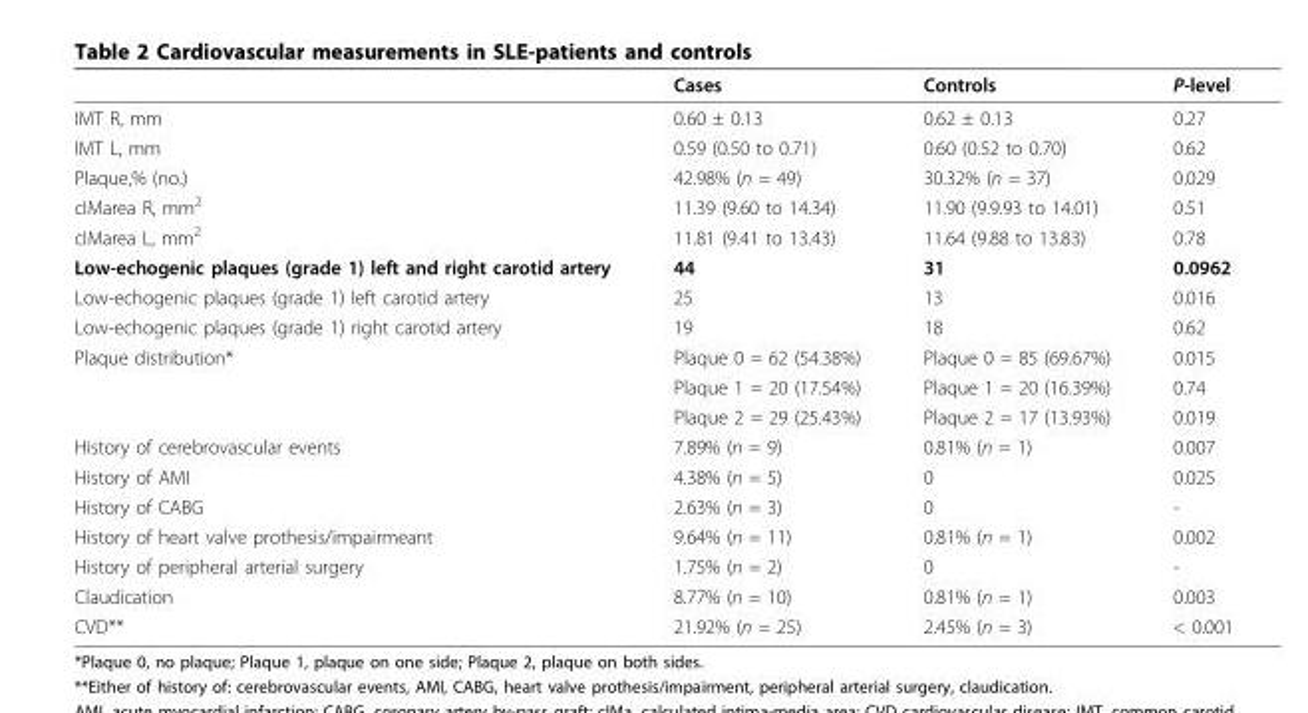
<table><thead><tr><td></td><td>Cases</td><td>Controls</td><td>P-level</td></tr></thead><tbody><tr><td>IMT R, mm</td><td>0.60 ± 0.13</td><td>0.62 ± 0.13</td><td>0.27</td></tr><tr><td>IMT L, mm</td><td>0.59 (0.50 to 0.71)</td><td>0.60 (0.52 to 0.70)</td><td>0.62</td></tr><tr><td>Plaque,% (no.)</td><td>42.98% (n = 49)</td><td>30.32% (n = 37)</td><td>0.029</td></tr><tr><td>cIMarea R, mm<sup>2</sup></td><td>11.39 (9.60 to 14.34)</td><td>11.90 (9.9.93 to 14.01)</td><td>0.51</td></tr><tr><td>cIMarea L, mm<sup>2</sup></td><td>11.81 (9.41 to 13.43)</td><td>11.64 (9.88 to 13.83)</td><td>0.78</td></tr><tr><td>Low-echogenic plaques (grade 1) left and right carotid artery</td><td>44</td><td>31</td><td>0.0962</td></tr><tr><td>Low-echogenic plaques (grade 1) left carotid artery</td><td>25</td><td>13</td><td>0.016</td></tr><tr><td>Low-echogenic plaques (grade 1) right carotid artery</td><td>19</td><td>18</td><td>0.62</td></tr><tr><td rowspan="3">Plaque distribution*</td><td>Plaque 0 = 62 (54.38%)</td><td>Plaque 0 = 85 (69.67%)</td><td>0.015</td></tr><tr><td>Plaque 1 = 20 (17.54%)</td><td>Plaque 1 = 20 (16.39%)</td><td>0.74</td></tr><tr><td>Plaque 2 = 29 (25.43%)</td><td>Plaque 2 = 17 (13.93%)</td><td>0.019</td></tr><tr><td>History of cerebrovascular events</td><td>7.89% (n = 9)</td><td>0.81% (n = 1)</td><td>0.007</td></tr><tr><td>History of AMI</td><td>4.38% (n = 5)</td><td>0</td><td>0.025</td></tr><tr><td>History of CABG</td><td>2.63% (n = 3)</td><td>0</td><td>-</td></tr><tr><td>History of heart valve prothesis/impairmeant</td><td>9.64% (n = 11)</td><td>0.81% (n = 1)</td><td>0.002</td></tr><tr><td>History of peripheral arterial surgery</td><td>1.75% (n = 2)</td><td>0</td><td>-</td></tr><tr><td>Claudication</td><td>8.77% (n = 10)</td><td>0.81% (n = 1)</td><td>0.003</td></tr><tr><td>CVD**</td><td>21.92% (n = 25)</td><td>2.45% (n = 3)</td><td>&lt; 0.001</td></tr></tbody></table>